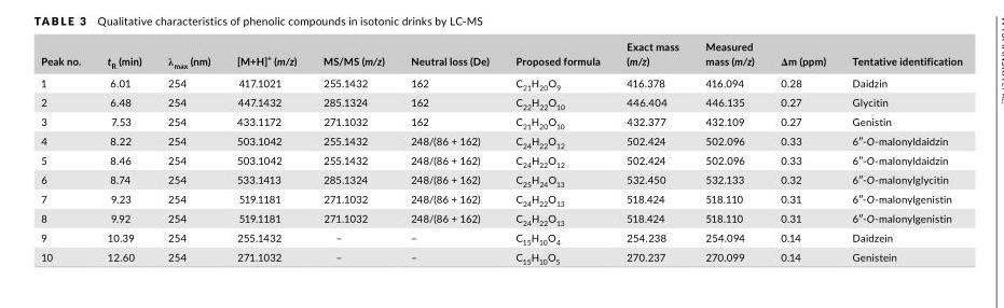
<table><thead><tr><td>Peak no.</td><td>t<sub>R</sub> (min)</td><td>λ<sub>max</sub> (nm)</td><td>[M+H]<sup>+</sup> (m/z)</td><td>MS/MS (m/z)</td><td>Neutral loss (De)</td><td>Proposed formula</td><td>Exact mass (m/z)</td><td>Measured mass (m/z)</td><td>Δm (ppm)</td><td>Tentative identification</td></tr></thead><tbody><tr><td>1</td><td>6.01</td><td>254</td><td>417.1021</td><td>255.1432</td><td>162</td><td>C<sub>21</sub>H<sub>20</sub>O<sub>9</sub></td><td>416.378</td><td>416.094</td><td>0.28</td><td>Daidzin</td></tr><tr><td>2</td><td>6.48</td><td>254</td><td>447.1432</td><td>285.1324</td><td>162</td><td>C<sub>22</sub>H<sub>22</sub>O<sub>10</sub></td><td>446.404</td><td>446.135</td><td>0.27</td><td>Glycitin</td></tr><tr><td>3</td><td>7.53</td><td>254</td><td>433.1172</td><td>271.1032</td><td>162</td><td>C<sub>21</sub>H<sub>20</sub>O<sub>10</sub></td><td>432.377</td><td>432.109</td><td>0.27</td><td>Genistin</td></tr><tr><td>4</td><td>8.22</td><td>254</td><td>503.1042</td><td>255.1432</td><td>248/(86 + 162)</td><td>C<sub>24</sub>H<sub>22</sub>O<sub>12</sub></td><td>502.424</td><td>502.096</td><td>0.33</td><td>6″- O- malonyldaidzin</td></tr><tr><td>5</td><td>8.46</td><td>254</td><td>503.1042</td><td>255.1432</td><td>248/(86 + 162)</td><td>C<sub>24</sub>H<sub>22</sub>O<sub>12</sub></td><td>502.424</td><td>502.096</td><td>0.33</td><td>6″- O- malonyldaidzin</td></tr><tr><td>6</td><td>8.74</td><td>254</td><td>533.1413</td><td>285.1324</td><td>248/(86 + 162)</td><td>C<sub>25</sub>H<sub>24</sub>O<sub>13</sub></td><td>532.450</td><td>532.133</td><td>0.32</td><td>6″- O- malonylglycitin</td></tr><tr><td>7</td><td>9.23</td><td>254</td><td>519.1181</td><td>271.1032</td><td>248/(86 + 162)</td><td>C<sub>24</sub>H<sub>22</sub>O<sub>13</sub></td><td>518.424</td><td>518.110</td><td>0.31</td><td>6″- O- malonylgenistin</td></tr><tr><td>8</td><td>9.92</td><td>254</td><td>519.1181</td><td>271.1032</td><td>248/(86 + 162)</td><td>C<sub>24</sub>H<sub>22</sub>O<sub>13</sub></td><td>518.424</td><td>518.110</td><td>0.31</td><td>6″- O- malonylgenistin</td></tr><tr><td>9</td><td>10.39</td><td>254</td><td>255.1432</td><td>–</td><td>–</td><td>C<sub>15</sub>H<sub>10</sub>O<sub>4</sub></td><td>254.238</td><td>254.094</td><td>0.14</td><td>Daidzein</td></tr><tr><td>10</td><td>12.60</td><td>254</td><td>271.1032</td><td>–</td><td>–</td><td>C<sub>15</sub>H<sub>10</sub>O<sub>5</sub></td><td>270.237</td><td>270.099</td><td>0.14</td><td>Genistein</td></tr></tbody></table>